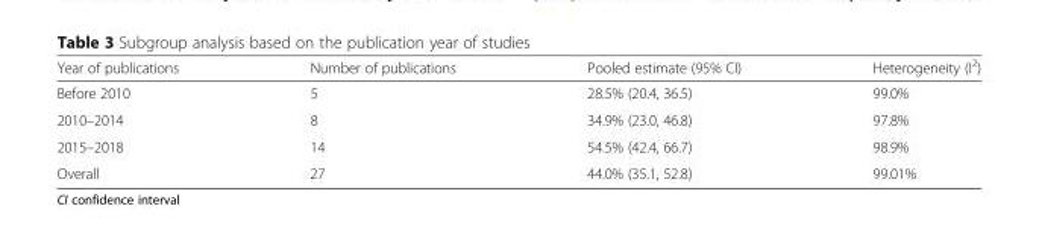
<table><thead><tr><td>Year of publications</td><td>Number of publications</td><td>Pooled estimate (95% CI)</td><td>Heterogeneity (I<sup>2</sup>)</td></tr></thead><tbody><tr><td>Before 2010</td><td>5</td><td>28.5% (20.4, 36.5)</td><td>99.0%</td></tr><tr><td>2010–2014</td><td>8</td><td>34.9% (23.0, 46.8)</td><td>97.8%</td></tr><tr><td>2015–2018</td><td>14</td><td>54.5% (42.4, 66.7)</td><td>98.9%</td></tr><tr><td>Overall</td><td>27</td><td>44.0% (35.1, 52.8)</td><td>99.01%</td></tr></tbody></table>